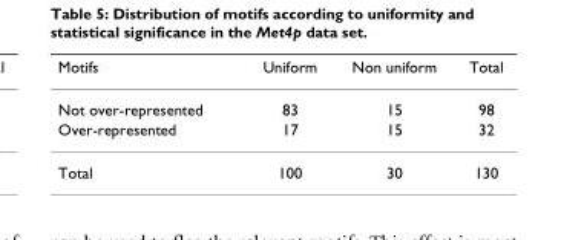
<table><thead><tr><td>Motifs</td><td>Uniform</td><td>Non uniform</td><td>Total</td></tr></thead><tbody><tr><td>Not over-represented</td><td>83</td><td>15</td><td>98</td></tr><tr><td>Over-represented</td><td>17</td><td>15</td><td>32</td></tr><tr><td>Total</td><td>100</td><td>30</td><td>130</td></tr></tbody></table>